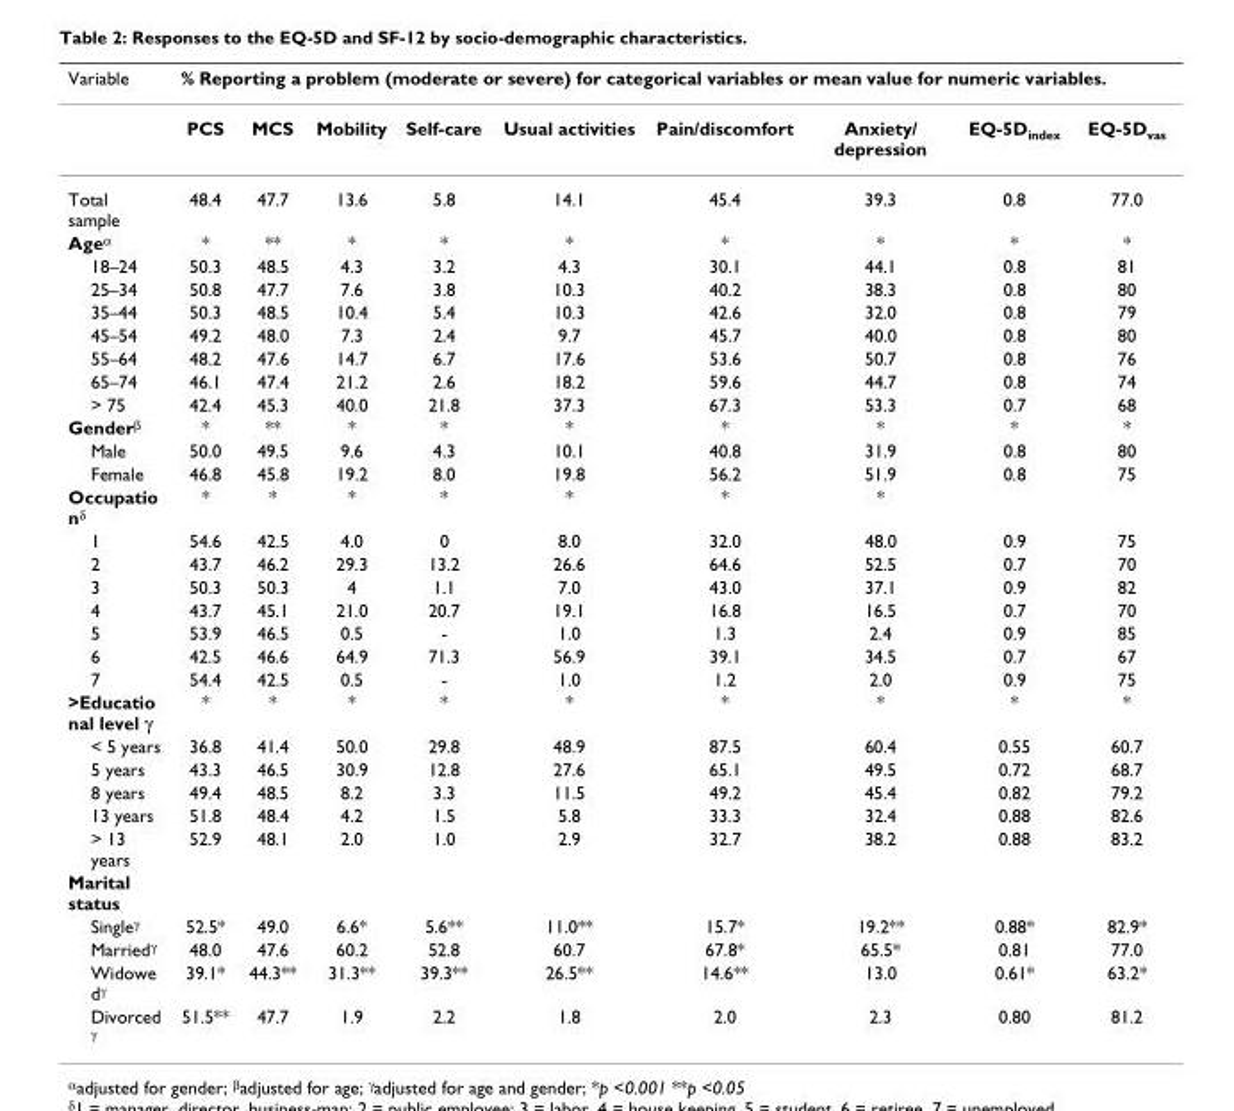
<table><thead><tr><td rowspan="2">Variable</td><td colspan="9">% Reporting a problem (moderate or severe) for categorical variables or mean value for numeric variables.</td></tr><tr><td>PCS</td><td>MCS</td><td>Mobility</td><td>Self-care</td><td>Usual activities</td><td>Pain/discomfort</td><td>Anxiety/ depression</td><td>EQ-5D<sub>index</sub></td><td>EQ-5D<sub>vas</sub></td></tr></thead><tbody><tr><td>Total sample</td><td>48.4</td><td>47.7</td><td>13.6</td><td>5.8</td><td>14.1</td><td>45.4</td><td>39.3</td><td>0.8</td><td>77.0</td></tr><tr><td>Age<sup>α</sup></td><td>*</td><td>**</td><td>*</td><td>*</td><td>*</td><td>*</td><td>*</td><td>*</td><td>*</td></tr><tr><td>18–24</td><td>50.3</td><td>48.5</td><td>4.3</td><td>3.2</td><td>4.3</td><td>30.1</td><td>44.1</td><td>0.8</td><td>81</td></tr><tr><td>25–34</td><td>50.8</td><td>47.7</td><td>7.6</td><td>3.8</td><td>10.3</td><td>40.2</td><td>38.3</td><td>0.8</td><td>80</td></tr><tr><td>35–44</td><td>50.3</td><td>48.5</td><td>10.4</td><td>5.4</td><td>10.3</td><td>42.6</td><td>32.0</td><td>0.8</td><td>79</td></tr><tr><td>45–54</td><td>49.2</td><td>48.0</td><td>7.3</td><td>2.4</td><td>9.7</td><td>45.7</td><td>40.0</td><td>0.8</td><td>80</td></tr><tr><td>55–64</td><td>48.2</td><td>47.6</td><td>14.7</td><td>6.7</td><td>17.6</td><td>53.6</td><td>50.7</td><td>0.8</td><td>76</td></tr><tr><td>65–74</td><td>46.1</td><td>47.4</td><td>21.2</td><td>2.6</td><td>18.2</td><td>59.6</td><td>44.7</td><td>0.8</td><td>74</td></tr><tr><td>&gt; 75</td><td>42.4</td><td>45.3</td><td>40.0</td><td>21.8</td><td>37.3</td><td>67.3</td><td>53.3</td><td>0.7</td><td>68</td></tr><tr><td>Gender<sup>β</sup></td><td>*</td><td>**</td><td>*</td><td>*</td><td>*</td><td>*</td><td>*</td><td>*</td><td>*</td></tr><tr><td>Male</td><td>50.0</td><td>49.5</td><td>9.6</td><td>4.3</td><td>10.1</td><td>40.8</td><td>31.9</td><td>0.8</td><td>80</td></tr><tr><td>Female</td><td>46.8</td><td>45.8</td><td>19.2</td><td>8.0</td><td>19.8</td><td>56.2</td><td>51.9</td><td>0.8</td><td>75</td></tr><tr><td>Occupatio n<sup>δ</sup></td><td>*</td><td>*</td><td>*</td><td>*</td><td>*</td><td>*</td><td>*</td><td></td><td></td></tr><tr><td>1</td><td>54.6</td><td>42.5</td><td>4.0</td><td>0</td><td>8.0</td><td>32.0</td><td>48.0</td><td>0.9</td><td>75</td></tr><tr><td>2</td><td>43.7</td><td>46.2</td><td>29.3</td><td>13.2</td><td>26.6</td><td>64.6</td><td>52.5</td><td>0.7</td><td>70</td></tr><tr><td>3</td><td>50.3</td><td>50.3</td><td>4</td><td>1.1</td><td>7.0</td><td>43.0</td><td>37.1</td><td>0.9</td><td>82</td></tr><tr><td>4</td><td>43.7</td><td>45.1</td><td>21.0</td><td>20.7</td><td>19.1</td><td>16.8</td><td>16.5</td><td>0.7</td><td>70</td></tr><tr><td>5</td><td>53.9</td><td>46.5</td><td>0.5</td><td>-</td><td>1.0</td><td>1.3</td><td>2.4</td><td>0.9</td><td>85</td></tr><tr><td>6</td><td>42.5</td><td>46.6</td><td>64.9</td><td>71.3</td><td>56.9</td><td>39.1</td><td>34.5</td><td>0.7</td><td>67</td></tr><tr><td>7</td><td>54.4</td><td>42.5</td><td>0.5</td><td>-</td><td>1.0</td><td>1.2</td><td>2.0</td><td>0.9</td><td>75</td></tr><tr><td>&gt;Educatio nal level γ</td><td>*</td><td>*</td><td>*</td><td>*</td><td>*</td><td>*</td><td>*</td><td>*</td><td>*</td></tr><tr><td>&lt; 5 years</td><td>36.8</td><td>41.4</td><td>50.0</td><td>29.8</td><td>48.9</td><td>87.5</td><td>60.4</td><td>0.55</td><td>60.7</td></tr><tr><td>5 years</td><td>43.3</td><td>46.5</td><td>30.9</td><td>12.8</td><td>27.6</td><td>65.1</td><td>49.5</td><td>0.72</td><td>68.7</td></tr><tr><td>8 years</td><td>49.4</td><td>48.5</td><td>8.2</td><td>3.3</td><td>11.5</td><td>49.2</td><td>45.4</td><td>0.82</td><td>79.2</td></tr><tr><td>13 years</td><td>51.8</td><td>48.4</td><td>4.2</td><td>1.5</td><td>5.8</td><td>33.3</td><td>32.4</td><td>0.88</td><td>82.6</td></tr><tr><td>&gt; 13 years</td><td>52.9</td><td>48.1</td><td>2.0</td><td>1.0</td><td>2.9</td><td>32.7</td><td>38.2</td><td>0.88</td><td>83.2</td></tr><tr><td colspan="10">Marital status</td></tr><tr><td>Single<sup>γ</sup></td><td>52.5*</td><td>49.0</td><td>6.6*</td><td>5.6**</td><td>11.0**</td><td>15.7*</td><td>19.2**</td><td>0.88*</td><td>82.9*</td></tr><tr><td>Married<sup>γ</sup></td><td>48.0</td><td>47.6</td><td>60.2</td><td>52.8</td><td>60.7</td><td>67.8*</td><td>65.5*</td><td>0.81</td><td>77.0</td></tr><tr><td>Widowe d<sup>γ</sup></td><td>39.1*</td><td>44.3**</td><td>31.3**</td><td>39.3**</td><td>26.5**</td><td>14.6**</td><td>13.0</td><td>0.61*</td><td>63.2*</td></tr><tr><td>Divorced <sup>γ</sup></td><td>51.5**</td><td>47.7</td><td>1.9</td><td>2.2</td><td>1.8</td><td>2.0</td><td>2.3</td><td>0.80</td><td>81.2</td></tr></tbody></table>